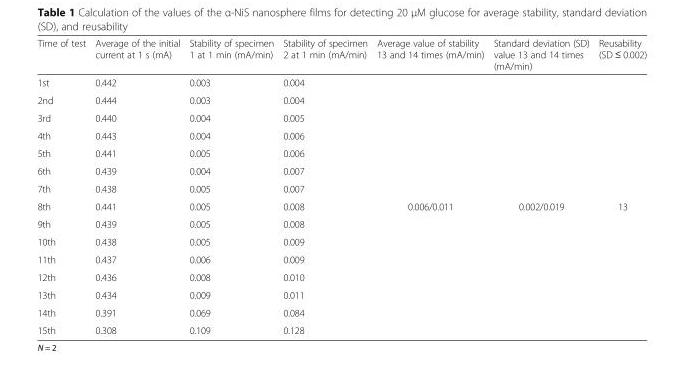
<table><thead><tr><td>Time of test</td><td>Average of the initial current at 1 s (mA)</td><td>Stability of specimen 1 at 1 min (mA/min)</td><td>Stability of specimen 2 at 1 min (mA/min)</td><td>Average value of stability 13 and 14 times (mA/min)</td><td>Standard deviation (SD) value 13 and 14 times (mA/min)</td><td>Reusability (SD ≤ 0.002)</td></tr></thead><tbody><tr><td>1st</td><td>0.442</td><td>0.003</td><td>0.004</td><td></td><td></td><td></td></tr><tr><td>2nd</td><td>0.444</td><td>0.003</td><td>0.004</td><td></td><td></td><td></td></tr><tr><td>3rd</td><td>0.440</td><td>0.004</td><td>0.005</td><td></td><td></td><td></td></tr><tr><td>4th</td><td>0.443</td><td>0.004</td><td>0.006</td><td></td><td></td><td></td></tr><tr><td>5th</td><td>0.441</td><td>0.005</td><td>0.006</td><td></td><td></td><td></td></tr><tr><td>6th</td><td>0.439</td><td>0.004</td><td>0.007</td><td></td><td></td><td></td></tr><tr><td>7th</td><td>0.438</td><td>0.005</td><td>0.007</td><td></td><td></td><td></td></tr><tr><td>8th</td><td>0.441</td><td>0.005</td><td>0.008</td><td>0.006/0.011</td><td>0.002/0.019</td><td>13</td></tr><tr><td>9th</td><td>0.439</td><td>0.005</td><td>0.008</td><td></td><td></td><td></td></tr><tr><td>10th</td><td>0.438</td><td>0.005</td><td>0.009</td><td></td><td></td><td></td></tr><tr><td>11th</td><td>0.437</td><td>0.006</td><td>0.009</td><td></td><td></td><td></td></tr><tr><td>12th</td><td>0.436</td><td>0.008</td><td>0.010</td><td></td><td></td><td></td></tr><tr><td>13th</td><td>0.434</td><td>0.009</td><td>0.011</td><td></td><td></td><td></td></tr><tr><td>14th</td><td>0.391</td><td>0.069</td><td>0.084</td><td></td><td></td><td></td></tr><tr><td>15th</td><td>0.308</td><td>0.109</td><td>0.128</td><td></td><td></td><td></td></tr></tbody></table>